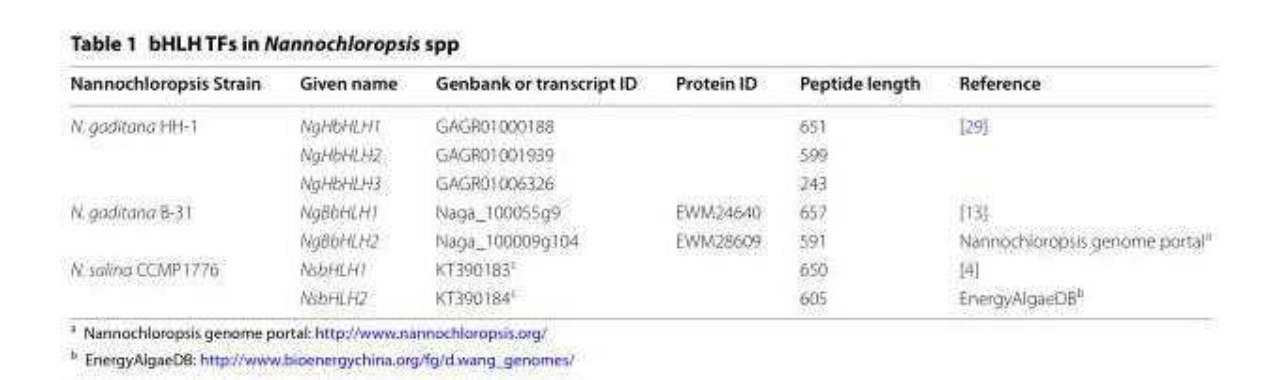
<table><thead><tr><td>Nannochloropsis Strain</td><td>Given name</td><td>Genbank or transcript ID</td><td>Protein ID</td><td>Peptide length</td><td>Reference</td></tr></thead><tbody><tr><td rowspan="3">N. gaditana HH‑1</td><td>NgHbHLH1</td><td>GAGR01000188</td><td></td><td>651</td><td rowspan="3">[29]</td></tr><tr><td>NgHbHLH2</td><td>GAGR01001939</td><td></td><td>599</td></tr><tr><td>NgHbHLH3</td><td>GAGR01006326</td><td></td><td>243</td></tr><tr><td rowspan="2">N. gaditana B‑31</td><td>NgBbHLH1</td><td>Naga_100055g9</td><td>EWM24640</td><td>657</td><td>[13]</td></tr><tr><td>NgBbHLH2</td><td>Naga_100009g104</td><td>EWM28609</td><td>591</td><td>Nannochloropsis genome portal<sup>a</sup></td></tr><tr><td rowspan="2">N. salina CCMP1776</td><td>NsbHLH1</td><td>KT390183<sup>c</sup></td><td></td><td>650</td><td>[4]</td></tr><tr><td>NsbHLH2</td><td>KT390184<sup>c</sup></td><td></td><td>605</td><td>EnergyAlgaeDB<sup>b</sup></td></tr></tbody></table>